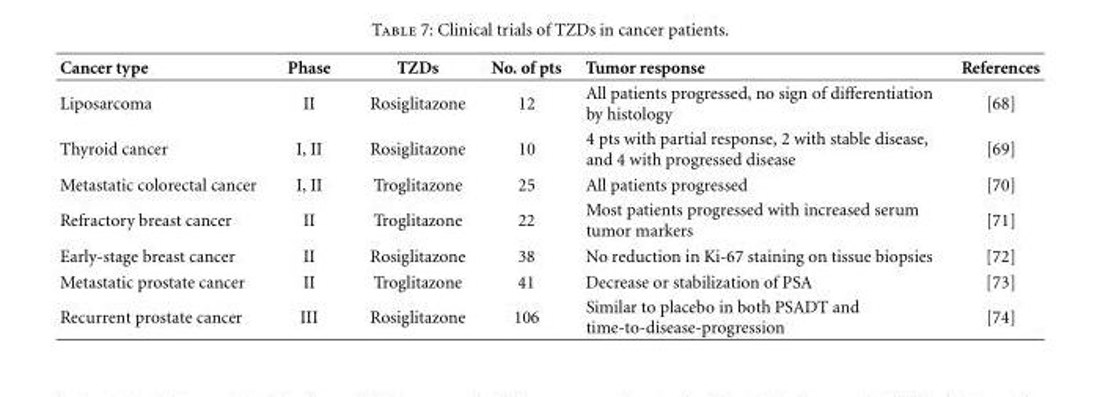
<table><thead><tr><td>Cancer type</td><td>Phase</td><td>TZDs</td><td>No. of pts</td><td>Tumor response</td><td>References</td></tr></thead><tbody><tr><td>Liposarcoma</td><td>II</td><td>Rosiglitazone</td><td>12</td><td>All patients progressed, no sign of differentiation by histology</td><td>[68]</td></tr><tr><td>Thyroid cancer</td><td>I, II</td><td>Rosiglitazone</td><td>10</td><td>4 pts with partial response, 2 with stable disease, and 4 with progressed disease</td><td>[69]</td></tr><tr><td>Metastatic colorectal cancer</td><td>I, II</td><td>Troglitazone</td><td>25</td><td>All patients progressed</td><td>[70]</td></tr><tr><td>Refractory breast cancer</td><td>II</td><td>Troglitazone</td><td>22</td><td>Most patients progressed with increased serum tumor markers</td><td>[71]</td></tr><tr><td>Early-stage breast cancer</td><td>II</td><td>Rosiglitazone</td><td>38</td><td>No reduction in Ki-67 staining on tissue biopsies</td><td>[72]</td></tr><tr><td>Metastatic prostate cancer</td><td>II</td><td>Troglitazone</td><td>41</td><td>Decrease or stabilization of PSA</td><td>[73]</td></tr><tr><td>Recurrent prostate cancer</td><td>III</td><td>Rosiglitazone</td><td>106</td><td>Similar to placebo in both PSADT and time-to-disease-progression</td><td>[74]</td></tr></tbody></table>